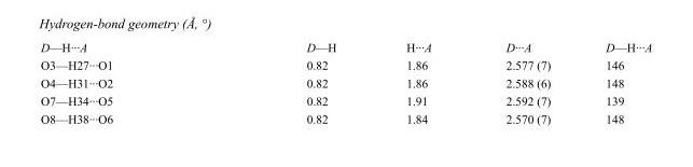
<table><tbody><tr><td>D—H···A</td><td>D—H</td><td>H···A</td><td>D···A</td><td>D—H···A</td></tr><tr><td>O3—H27···O1</td><td>0.82</td><td>1.86</td><td>2.577 (7)</td><td>146</td></tr><tr><td>O4—H31···O2</td><td>0.82</td><td>1.86</td><td>2.588 (6)</td><td>148</td></tr><tr><td>O7—H34···O5</td><td>0.82</td><td>1.91</td><td>2.592 (7)</td><td>139</td></tr><tr><td>O8—H38···O6</td><td>0.82</td><td>1.84</td><td>2.570 (7)</td><td>148</td></tr></tbody></table>